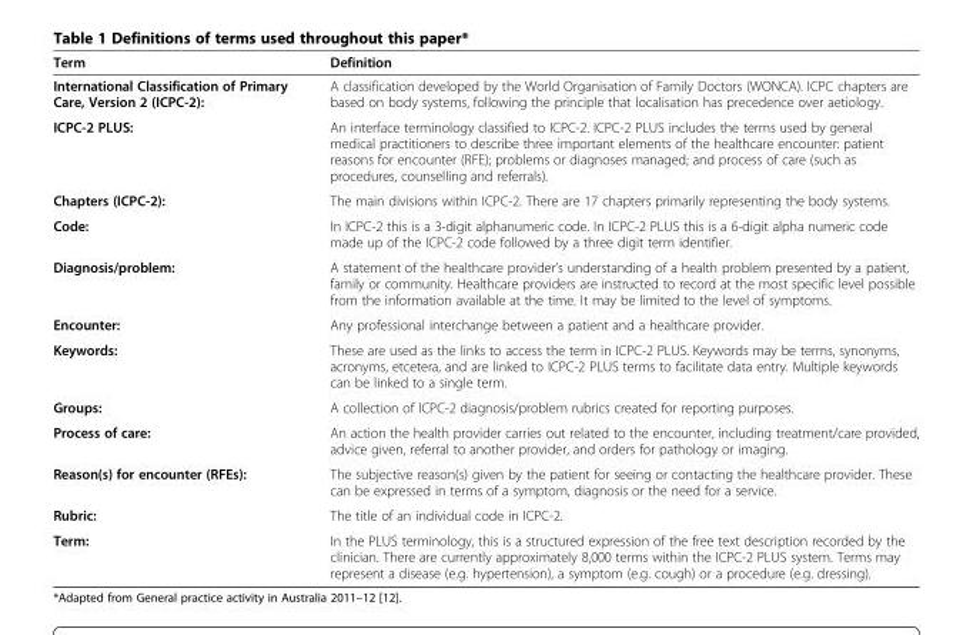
<table><thead><tr><td>Term</td><td>Definition</td></tr></thead><tbody><tr><td>International Classification of Primary Care, Version 2 (ICPC-2):</td><td>A classification developed by the World Organisation of Family Doctors (WONCA). ICPC chapters are based on body systems, following the principle that localisation has precedence over aetiology.</td></tr><tr><td>ICPC-2 PLUS:</td><td>An interface terminology classified to ICPC-2. ICPC-2 PLUS includes the terms used by general medical practitioners to describe three important elements of the healthcare encounter: patient reasons for encounter (RFE); problems or diagnoses managed; and process of care (such as procedures, counselling and referrals).</td></tr><tr><td>Chapters (ICPC-2):</td><td>The main divisions within ICPC-2. There are 17 chapters primarily representing the body systems.</td></tr><tr><td>Code:</td><td>In ICPC-2 this is a 3-digit alphanumeric code. In ICPC-2 PLUS this is a 6-digit alpha numeric code made up of the ICPC-2 code followed by a three digit term identifier.</td></tr><tr><td>Diagnosis/problem:</td><td>A statement of the healthcare provider’s understanding of a health problem presented by a patient, family or community. Healthcare providers are instructed to record at the most specific level possible from the information available at the time. It may be limited to the level of symptoms.</td></tr><tr><td>Encounter:</td><td>Any professional interchange between a patient and a healthcare provider.</td></tr><tr><td>Keywords:</td><td>These are used as the links to access the term in ICPC-2 PLUS. Keywords may be terms, synonyms, acronyms, etcetera, and are linked to ICPC-2 PLUS terms to facilitate data entry. Multiple keywords can be linked to a single term.</td></tr><tr><td>Groups:</td><td>A collection of ICPC-2 diagnosis/problem rubrics created for reporting purposes.</td></tr><tr><td>Process of care:</td><td>An action the health provider carries out related to the encounter, including treatment/care provided, advice given, referral to another provider, and orders for pathology or imaging.</td></tr><tr><td>Reason(s) for encounter (RFEs):</td><td>The subjective reason(s) given by the patient for seeing or contacting the healthcare provider. These can be expressed in terms of a symptom, diagnosis or the need for a service.</td></tr><tr><td>Rubric:</td><td>The title of an individual code in ICPC-2.</td></tr><tr><td>Term:</td><td>In the PLUS terminology, this is a structured expression of the free text description recorded by the clinician. There are currently approximately 8,000 terms within the ICPC-2 PLUS system. Terms may represent a disease (e.g. hypertension), a symptom (e.g. cough) or a procedure (e.g. dressing).</td></tr></tbody></table>